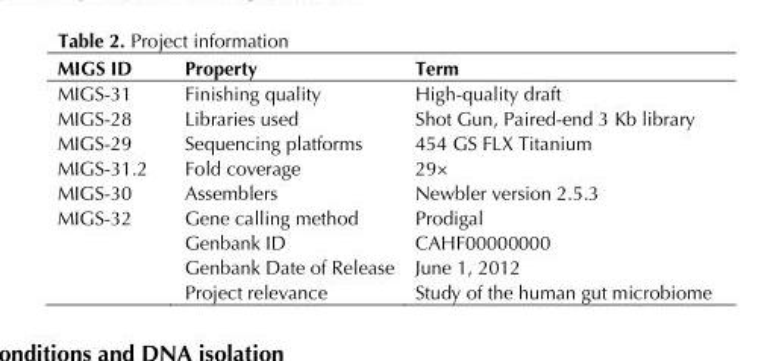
<table><thead><tr><td>MIGS ID</td><td>Property</td><td>Term</td></tr></thead><tbody><tr><td>MIGS-31</td><td>Finishing quality</td><td>High-quality draft</td></tr><tr><td>MIGS-28</td><td>Libraries used</td><td>Shot Gun, Paired-end 3 Kb library</td></tr><tr><td>MIGS-29</td><td>Sequencing platforms</td><td>454 GS FLX Titanium</td></tr><tr><td>MIGS-31.2</td><td>Fold coverage</td><td>29×</td></tr><tr><td>MIGS-30</td><td>Assemblers</td><td>Newbler version 2.5.3</td></tr><tr><td rowspan="4">MIGS-32</td><td>Gene calling method</td><td>Prodigal</td></tr><tr><td>Genbank ID</td><td>CAHF00000000</td></tr><tr><td>Genbank Date of Release</td><td>June 1, 2012</td></tr><tr><td>Project relevance</td><td>Study of the human gut microbiome</td></tr></tbody></table>